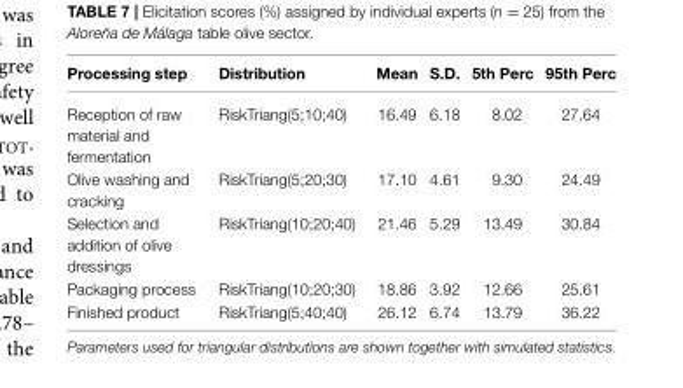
<table><thead><tr><td>Processing step</td><td>Distribution</td><td>Mean</td><td>S.D.</td><td>5th Perc</td><td>95th Perc</td></tr></thead><tbody><tr><td>Reception of raw material and fermentation</td><td>RiskTriang(5;10;40)</td><td>16.49</td><td>6.18</td><td>8.02</td><td>27.64</td></tr><tr><td>Olive washing and cracking</td><td>RiskTriang(5;20;30)</td><td>17.10</td><td>4.61</td><td>9.30</td><td>24.49</td></tr><tr><td>Selection and addition of olive dressings</td><td>RiskTriang(10;20;40)</td><td>21.46</td><td>5.29</td><td>13.49</td><td>30.84</td></tr><tr><td>Packaging process</td><td>RiskTriang(10;20;30)</td><td>18.86</td><td>3.92</td><td>12.66</td><td>25.61</td></tr><tr><td>Finished product</td><td>RiskTriang(5;40;40)</td><td>26.12</td><td>6.74</td><td>13.79</td><td>36.22</td></tr></tbody></table>